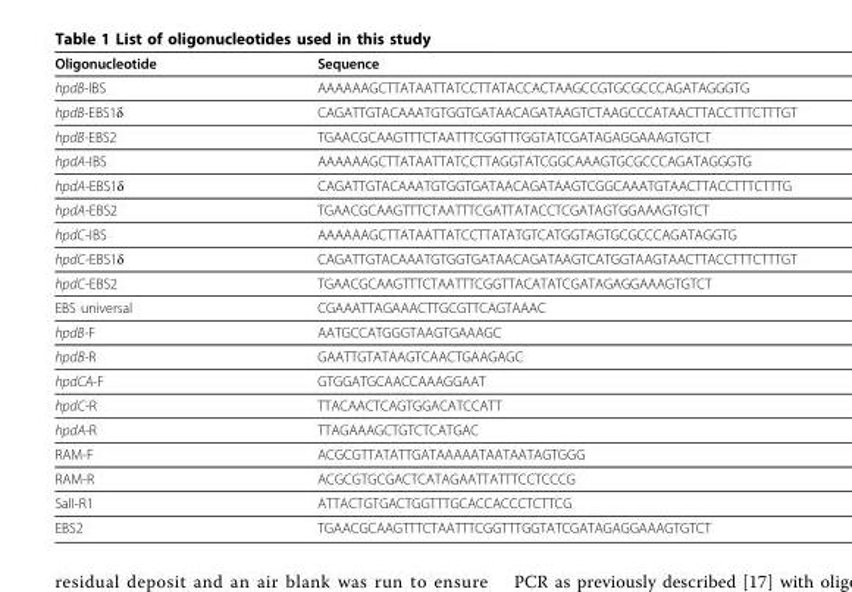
<table><thead><tr><td>Oligonucleotide</td><td>Sequence</td></tr></thead><tbody><tr><td>hpdB-IBS</td><td>AAAAAAGCTTATAATTATCCTTATACCACTAAGCCGTGCGCCCAGATAGGGTG</td></tr><tr><td>hpdB-EBS1δ</td><td>CAGATTGTACAAATGTGGTGATAACAGATAAGTCTAAGCCCATAACTTACCTTTCTTTGT</td></tr><tr><td>hpdB-EBS2</td><td>TGAACGCAAGTTTCTAATTTCGGTTTGGTATCGATAGAGGAAAGTGTCT</td></tr><tr><td>hpdA-IBS</td><td>AAAAAAGCTTATAATTATCCTTAGGTATCGGCAAAGTGCGCCCAGATAGGGTG</td></tr><tr><td>hpdA-EBS1δ</td><td>CAGATTGTACAAATGTGGTGATAACAGATAAGTCGGCAAATGTAACTTACCTTTCTTTG</td></tr><tr><td>hpdA-EBS2</td><td>TGAACGCAAGTTTCTAATTTCGATTATACCTCGATAGTGGAAAGTGTCT</td></tr><tr><td>hpdC-IBS</td><td>AAAAAAGCTTATAATTATCCTTATATGTCATGGTAGTGCGCCCAGATAGGTG</td></tr><tr><td>hpdC-EBS1δ</td><td>CAGATTGTACAAATGTGGTGATAACAGATAAGTCATGGTAAGTAACTTACCTTTCTTTGT</td></tr><tr><td>hpdC-EBS2</td><td>TGAACGCAAGTTTCTAATTTCGGTTACATATCGATAGAGGAAAGTGTCT</td></tr><tr><td>EBS universal</td><td>CGAAATTAGAAACTTGCGTTCAGTAAAC</td></tr><tr><td>hpdB-F</td><td>AATGCCATGGGTAAGTGAAAGC</td></tr><tr><td>hpdB-R</td><td>GAATTGTATAAGTCAACTGAAGAGC</td></tr><tr><td>hpdCA-F</td><td>GTGGATGCAACCAAAGGAAT</td></tr><tr><td>hpdC-R</td><td>TTACAACTCAGTGGACATCCATT</td></tr><tr><td>hpdA-R</td><td>TTAGAAAGCTGTCTCATGAC</td></tr><tr><td>RAM-F</td><td>ACGCGTTATATTGATAAAAATAATAATAGTGGG</td></tr><tr><td>RAM-R</td><td>ACGCGTGCGACTCATAGAATTATTTCCTCCCG</td></tr><tr><td>SalI-R1</td><td>ATTACTGTGACTGGTTTGCACCACCCTCTTCG</td></tr><tr><td>EBS2</td><td>TGAACGCAAGTTTCTAATTTCGGTTTGGTATCGATAGAGGAAAGTGTCT</td></tr></tbody></table>